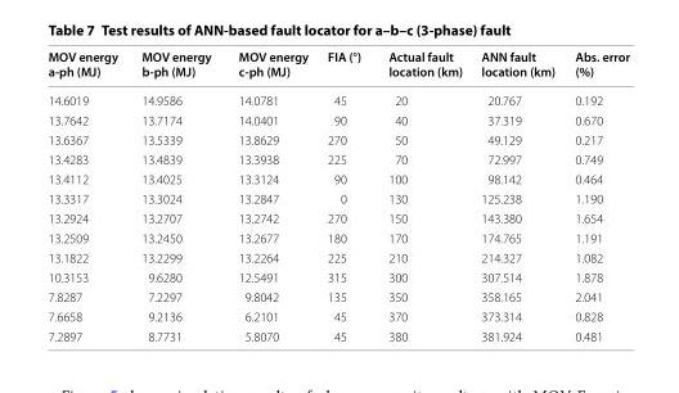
<table><thead><tr><td>MOV energy a-ph (MJ)</td><td>MOV energy b-ph (MJ)</td><td>MOV energy c-ph (MJ)</td><td>FIA (°)</td><td>Actual fault location (km)</td><td>ANN fault location (km)</td><td>Abs. error (%)</td></tr></thead><tbody><tr><td>14.6019</td><td>14.9586</td><td>14.0781</td><td>45</td><td>20</td><td>20.767</td><td>0.192</td></tr><tr><td>13.7642</td><td>13.7174</td><td>14.0401</td><td>90</td><td>40</td><td>37.319</td><td>0.670</td></tr><tr><td>13.6367</td><td>13.5339</td><td>13.8629</td><td>270</td><td>50</td><td>49.129</td><td>0.217</td></tr><tr><td>13.4283</td><td>13.4839</td><td>13.3938</td><td>225</td><td>70</td><td>72.997</td><td>0.749</td></tr><tr><td>13.4112</td><td>13.4025</td><td>13.3124</td><td>90</td><td>100</td><td>98.142</td><td>0.464</td></tr><tr><td>13.3317</td><td>13.3024</td><td>13.2847</td><td>0</td><td>130</td><td>125.238</td><td>1.190</td></tr><tr><td>13.2924</td><td>13.2707</td><td>13.2742</td><td>270</td><td>150</td><td>143.380</td><td>1.654</td></tr><tr><td>13.2509</td><td>13.2450</td><td>13.2677</td><td>180</td><td>170</td><td>174.765</td><td>1.191</td></tr><tr><td>13.1822</td><td>13.2299</td><td>13.2264</td><td>225</td><td>210</td><td>214.327</td><td>1.082</td></tr><tr><td>10.3153</td><td>9.6280</td><td>12.5491</td><td>315</td><td>300</td><td>307.514</td><td>1.878</td></tr><tr><td>7.8287</td><td>7.2297</td><td>9.8042</td><td>135</td><td>350</td><td>358.165</td><td>2.041</td></tr><tr><td>7.6658</td><td>9.2136</td><td>6.2101</td><td>45</td><td>370</td><td>373.314</td><td>0.828</td></tr><tr><td>7.2897</td><td>8.7731</td><td>5.8070</td><td>45</td><td>380</td><td>381.924</td><td>0.481</td></tr></tbody></table>